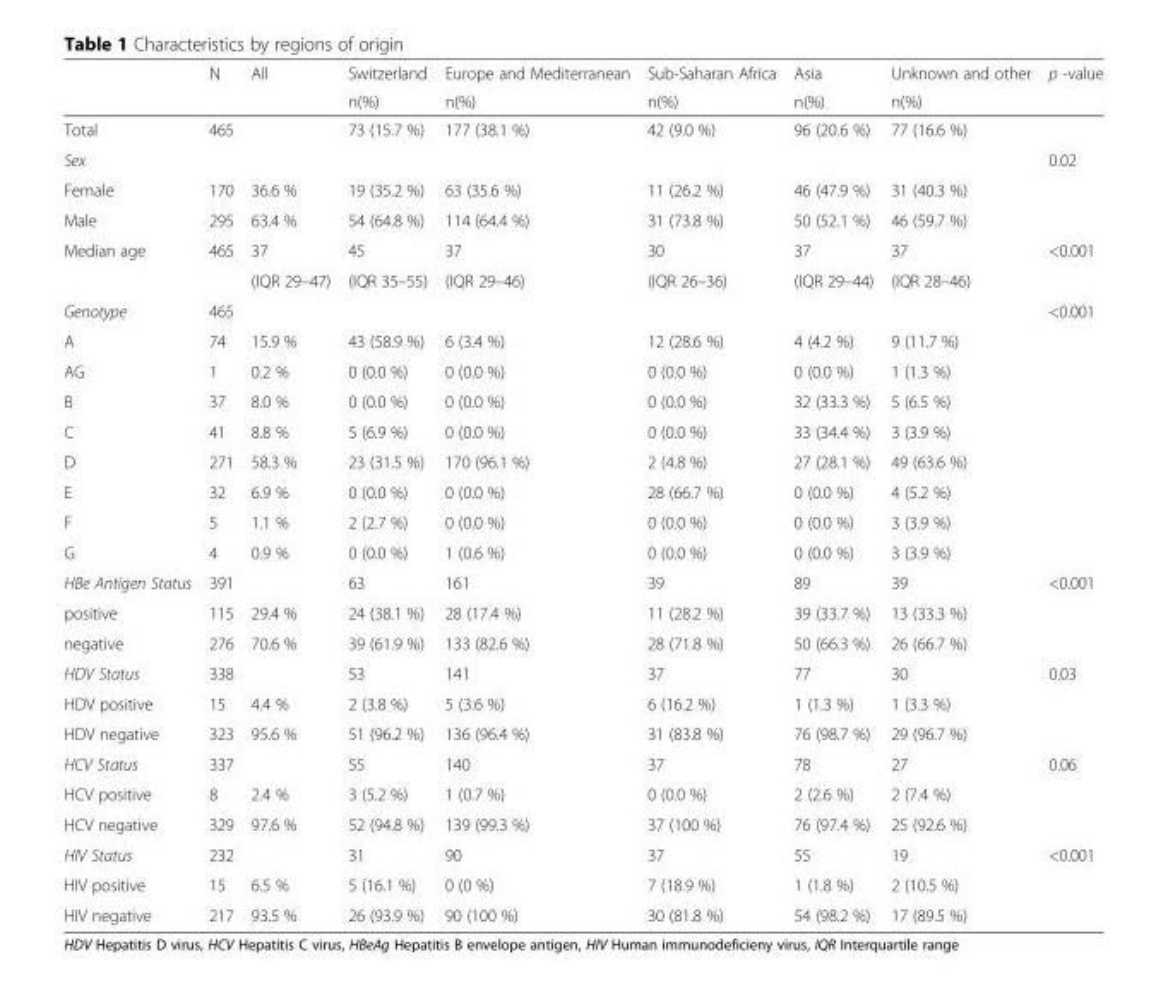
<table><thead><tr><td rowspan="2"></td><td rowspan="2">N</td><td rowspan="2">All</td><td rowspan="2">Switzerland n(%)</td><td rowspan="2">Europe and Mediterranean n(%)</td><td rowspan="2">Sub-Saharan Africa n(%)</td><td rowspan="2">Asia n(%)</td><td rowspan="2">Unknown and other n(%)</td><td rowspan="2">p -value</td></tr><tr></tr></thead><tbody><tr><td>Total</td><td>465</td><td></td><td>73 (15.7 %)</td><td>177 (38.1 %)</td><td>42 (9.0 %)</td><td>96 (20.6 %)</td><td>77 (16.6 %)</td><td></td></tr><tr><td>Sex</td><td></td><td></td><td></td><td></td><td></td><td></td><td></td><td>0.02</td></tr><tr><td>Female</td><td>170</td><td>36.6 %</td><td>19 (35.2 %)</td><td>63 (35.6 %)</td><td>11 (26.2 %)</td><td>46 (47.9 %)</td><td>31 (40.3 %)</td><td></td></tr><tr><td>Male</td><td>295</td><td>63.4 %</td><td>54 (64.8 %)</td><td>114 (64.4 %)</td><td>31 (73.8 %)</td><td>50 (52.1 %)</td><td>46 (59.7 %)</td><td></td></tr><tr><td rowspan="2">Median age</td><td rowspan="2">465</td><td>37</td><td>45</td><td>37</td><td>30</td><td>37</td><td>37</td><td rowspan="2">&lt;0.001</td></tr><tr><td>(IQR 29–47)</td><td>(IQR 35–55)</td><td>(IQR 29–46)</td><td>(IQR 26–36)</td><td>(IQR 29–44)</td><td>(IQR 28–46)</td></tr><tr><td>Genotype</td><td>465</td><td></td><td></td><td></td><td></td><td></td><td></td><td>&lt;0.001</td></tr><tr><td>A</td><td>74</td><td>15.9 %</td><td>43 (58.9 %)</td><td>6 (3.4 %)</td><td>12 (28.6 %)</td><td>4 (4.2 %)</td><td>9 (11.7 %)</td><td></td></tr><tr><td>AG</td><td>1</td><td>0.2 %</td><td>0 (0.0 %)</td><td>0 (0.0 %)</td><td>0 (0.0 %)</td><td>0 (0.0 %)</td><td>1 (1.3 %)</td><td></td></tr><tr><td>B</td><td>37</td><td>8.0 %</td><td>0 (0.0 %)</td><td>0 (0.0 %)</td><td>0 (0.0 %)</td><td>32 (33.3 %)</td><td>5 (6.5 %)</td><td></td></tr><tr><td>C</td><td>41</td><td>8.8 %</td><td>5 (6.9 %)</td><td>0 (0.0 %)</td><td>0 (0.0 %)</td><td>33 (34.4 %)</td><td>3 (3.9 %)</td><td></td></tr><tr><td>D</td><td>271</td><td>58.3 %</td><td>23 (31.5 %)</td><td>170 (96.1 %)</td><td>2 (4.8 %)</td><td>27 (28.1 %)</td><td>49 (63.6 %)</td><td></td></tr><tr><td>E</td><td>32</td><td>6.9 %</td><td>0 (0.0 %)</td><td>0 (0.0 %)</td><td>28 (66.7 %)</td><td>0 (0.0 %)</td><td>4 (5.2 %)</td><td></td></tr><tr><td>F</td><td>5</td><td>1.1 %</td><td>2 (2.7 %)</td><td>0 (0.0 %)</td><td>0 (0.0 %)</td><td>0 (0.0 %)</td><td>3 (3.9 %)</td><td></td></tr><tr><td>G</td><td>4</td><td>0.9 %</td><td>0 (0.0 %)</td><td>1 (0.6 %)</td><td>0 (0.0 %)</td><td>0 (0.0 %)</td><td>3 (3.9 %)</td><td></td></tr><tr><td>HBe Antigen Status</td><td>391</td><td></td><td>63</td><td>161</td><td>39</td><td>89</td><td>39</td><td>&lt;0.001</td></tr><tr><td>positive</td><td>115</td><td>29.4 %</td><td>24 (38.1 %)</td><td>28 (17.4 %)</td><td>11 (28.2 %)</td><td>39 (33.7 %)</td><td>13 (33.3 %)</td><td></td></tr><tr><td>negative</td><td>276</td><td>70.6 %</td><td>39 (61.9 %)</td><td>133 (82.6 %)</td><td>28 (71.8 %)</td><td>50 (66.3 %)</td><td>26 (66.7 %)</td><td></td></tr><tr><td>HDV Status</td><td>338</td><td></td><td>53</td><td>141</td><td>37</td><td>77</td><td>30</td><td>0.03</td></tr><tr><td>HDV positive</td><td>15</td><td>4.4 %</td><td>2 (3.8 %)</td><td>5 (3.6 %)</td><td>6 (16.2 %)</td><td>1 (1.3 %)</td><td>1 (3.3 %)</td><td></td></tr><tr><td>HDV negative</td><td>323</td><td>95.6 %</td><td>51 (96.2 %)</td><td>136 (96.4 %)</td><td>31 (83.8 %)</td><td>76 (98.7 %)</td><td>29 (96.7 %)</td><td></td></tr><tr><td>HCV Status</td><td>337</td><td></td><td>55</td><td>140</td><td>37</td><td>78</td><td>27</td><td>0.06</td></tr><tr><td>HCV positive</td><td>8</td><td>2.4 %</td><td>3 (5.2 %)</td><td>1 (0.7 %)</td><td>0 (0.0 %)</td><td>2 (2.6 %)</td><td>2 (7.4 %)</td><td></td></tr><tr><td>HCV negative</td><td>329</td><td>97.6 %</td><td>52 (94.8 %)</td><td>139 (99.3 %)</td><td>37 (100 %)</td><td>76 (97.4 %)</td><td>25 (92.6 %)</td><td></td></tr><tr><td>HIV Status</td><td>232</td><td></td><td>31</td><td>90</td><td>37</td><td>55</td><td>19</td><td>&lt;0.001</td></tr><tr><td>HIV positive</td><td>15</td><td>6.5 %</td><td>5 (16.1 %)</td><td>0 (0 %)</td><td>7 (18.9 %)</td><td>1 (1.8 %)</td><td>2 (10.5 %)</td><td></td></tr><tr><td>HIV negative</td><td>217</td><td>93.5 %</td><td>26 (93.9 %)</td><td>90 (100 %)</td><td>30 (81.8 %)</td><td>54 (98.2 %)</td><td>17 (89.5 %)</td><td></td></tr></tbody></table>